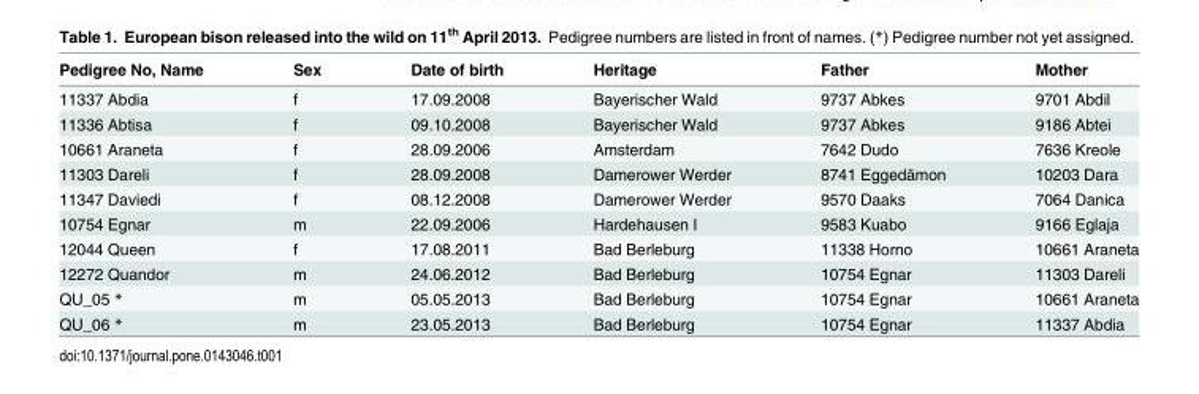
<table><thead><tr><td>Pedigree No, Name</td><td>Sex</td><td>Date of birth</td><td>Heritage</td><td>Father</td><td>Mother</td></tr></thead><tbody><tr><td>11337 Abdia</td><td>f</td><td>17.09.2008</td><td>Bayerischer Wald</td><td>9737 Abkes</td><td>9701 Abdil</td></tr><tr><td>11336 Abtisa</td><td>f</td><td>09.10.2008</td><td>Bayerischer Wald</td><td>9737 Abkes</td><td>9186 Abtei</td></tr><tr><td>10661 Araneta</td><td>f</td><td>28.09.2006</td><td>Amsterdam</td><td>7642 Dudo</td><td>7636 Kreole</td></tr><tr><td>11303 Dareli</td><td>f</td><td>28.09.2008</td><td>Damerower Werder</td><td>8741 Eggedämon</td><td>10203 Dara</td></tr><tr><td>11347 Daviedi</td><td>f</td><td>08.12.2008</td><td>Damerower Werder</td><td>9570 Daaks</td><td>7064 Danica</td></tr><tr><td>10754 Egnar</td><td>m</td><td>22.09.2006</td><td>Hardehausen I</td><td>9583 Kuabo</td><td>9166 Eglaja</td></tr><tr><td>12044 Queen</td><td>f</td><td>17.08.2011</td><td>Bad Berleburg</td><td>11338 Horno</td><td>10661 Araneta</td></tr><tr><td>12272 Quandor</td><td>m</td><td>24.06.2012</td><td>Bad Berleburg</td><td>10754 Egnar</td><td>11303 Dareli</td></tr><tr><td>QU_05 *</td><td>m</td><td>05.05.2013</td><td>Bad Berleburg</td><td>10754 Egnar</td><td>10661 Araneta</td></tr><tr><td>QU_06 *</td><td>m</td><td>23.05.2013</td><td>Bad Berleburg</td><td>10754 Egnar</td><td>11337 Abdia</td></tr></tbody></table>